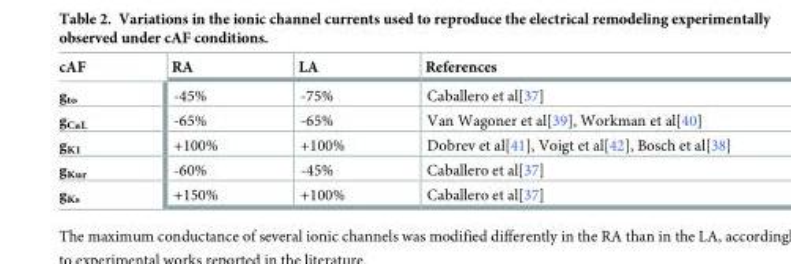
<table><thead><tr><td>cAF</td><td>RA</td><td>LA</td><td>References</td></tr></thead><tbody><tr><td>g<sub>to</sub></td><td>-45%</td><td>-75%</td><td>Caballero et al[37]</td></tr><tr><td>g<sub>CaL</sub></td><td>-65%</td><td>-65%</td><td>Van Wagoner et al[39], Workman et al[40]</td></tr><tr><td>g<sub>K1</sub></td><td>+100%</td><td>+100%</td><td>Dobrev et al[41], Voigt et al[42], Bosch et al[38]</td></tr><tr><td>g<sub>Kur</sub></td><td>-60%</td><td>-45%</td><td>Caballero et al[37]</td></tr><tr><td>g<sub>Ks</sub></td><td>+150%</td><td>+100%</td><td>Caballero et al[37]</td></tr></tbody></table>